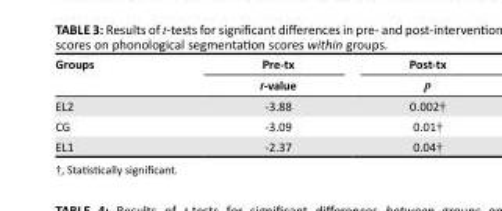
<table><thead><tr><td rowspan="2">Groups</td><td rowspan="2">Pre-tx t-value</td><td rowspan="2">Post-tx p</td></tr><tr></tr></thead><tbody><tr><td>EL2</td><td>-3.88</td><td>0.002†</td></tr><tr><td>CG</td><td>-3.09</td><td>0.01†</td></tr><tr><td>EL1</td><td>-2.37</td><td>0.04†</td></tr></tbody></table>